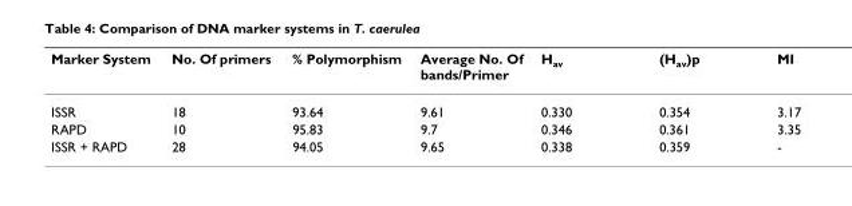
<table><thead><tr><td>Marker System</td><td>No. Of primers</td><td>% Polymorphism</td><td>Average No. Of bands/Primer</td><td>Hav</td><td>(Hav)p</td><td>MI</td></tr></thead><tbody><tr><td>ISSR</td><td>18</td><td>93.64</td><td>9.61</td><td>0.330</td><td>0.354</td><td>3.17</td></tr><tr><td>RAPD</td><td>10</td><td>95.83</td><td>9.7</td><td>0.346</td><td>0.361</td><td>3.35</td></tr><tr><td>ISSR + RAPD</td><td>28</td><td>94.05</td><td>9.65</td><td>0.338</td><td>0.359</td><td>-</td></tr></tbody></table>